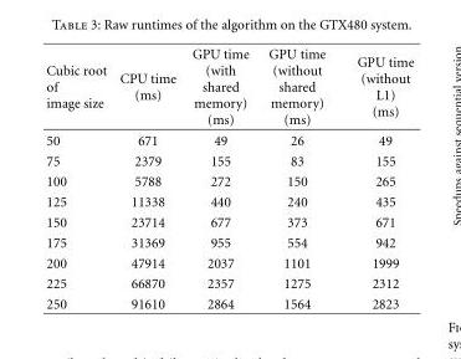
<table><thead><tr><td>Cubic root of image size</td><td>CPU time (ms)</td><td>GPU time (with shared memory) (ms)</td><td>GPU time (without shared memory) (ms)</td><td>GPU time (without L1) (ms)</td></tr></thead><tbody><tr><td>50</td><td>671</td><td>49</td><td>26</td><td>49</td></tr><tr><td>75</td><td>2379</td><td>155</td><td>83</td><td>155</td></tr><tr><td>100</td><td>5788</td><td>272</td><td>150</td><td>265</td></tr><tr><td>125</td><td>11338</td><td>440</td><td>240</td><td>435</td></tr><tr><td>150</td><td>23714</td><td>677</td><td>373</td><td>671</td></tr><tr><td>175</td><td>31369</td><td>955</td><td>554</td><td>942</td></tr><tr><td>200</td><td>47914</td><td>2037</td><td>1101</td><td>1999</td></tr><tr><td>225</td><td>66870</td><td>2357</td><td>1275</td><td>2312</td></tr><tr><td>250</td><td>91610</td><td>2864</td><td>1564</td><td>2823</td></tr></tbody></table>